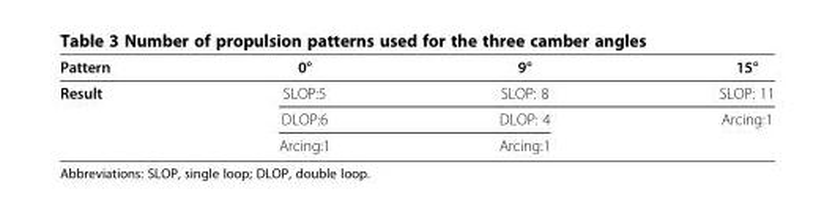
<table><thead><tr><td>Pattern</td><td>0°</td><td>9°</td><td>15°</td></tr></thead><tbody><tr><td rowspan="3">Result</td><td>SLOP:5</td><td>SLOP: 8</td><td>SLOP: 11</td></tr><tr><td>DLOP:6</td><td>DLOP: 4</td><td>Arcing:1</td></tr><tr><td>Arcing:1</td><td>Arcing:1</td><td></td></tr></tbody></table>